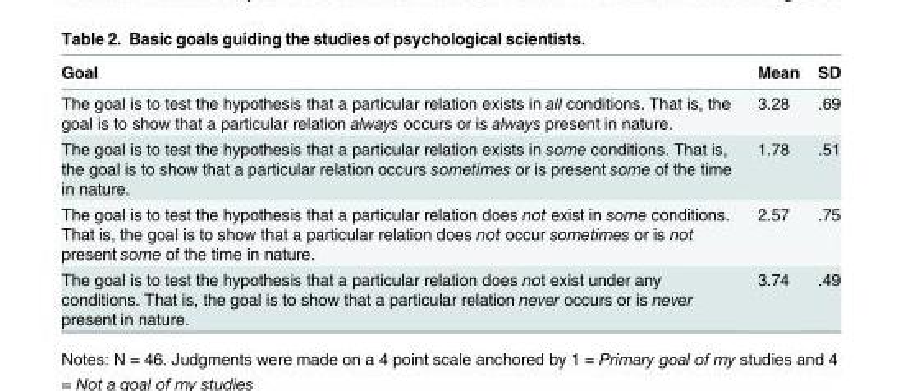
<table><thead><tr><td>Goal</td><td>Mean</td><td>SD</td></tr></thead><tbody><tr><td>The goal is to test the hypothesis that a particular relation exists in all conditions. That is, the goal is to show that a particular relation always occurs or is always present in nature.</td><td>3.28</td><td>.69</td></tr><tr><td>The goal is to test the hypothesis that a particular relation exists in some conditions. That is, the goal is to show that a particular relation occurs sometimes or is present some of the time in nature.</td><td>1.78</td><td>.51</td></tr><tr><td>The goal is to test the hypothesis that a particular relation does not exist in some conditions. That is, the goal is to show that a particular relation does not occur sometimes or is not present some of the time in nature.</td><td>2.57</td><td>.75</td></tr><tr><td>The goal is to test the hypothesis that a particular relation does not exist under any conditions. That is, the goal is to show that a particular relation never occurs or is never present in nature.</td><td>3.74</td><td>.49</td></tr></tbody></table>